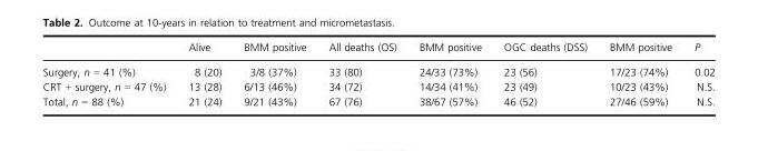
<table><thead><tr><td></td><td>Alive</td><td>BMM positive</td><td>All deaths (OS)</td><td>BMM positive</td><td>OGC deaths (DSS)</td><td>BMM positive</td><td>P</td></tr></thead><tbody><tr><td>Surgery, n = 41 (%)</td><td>8 (20)</td><td>3/8 (37%)</td><td>33 (80)</td><td>24/33 (73%)</td><td>23 (56)</td><td>17/23 (74%)</td><td>0.02</td></tr><tr><td>CRT + surgery, n = 47 (%)</td><td>13 (28)</td><td>6/13 (46%)</td><td>34 (72)</td><td>14/34 (41%)</td><td>23 (49)</td><td>10/23 (43%)</td><td>N.S.</td></tr><tr><td>Total, n = 88 (%)</td><td>21 (24)</td><td>9/21 (43%)</td><td>67 (76)</td><td>38/67 (57%)</td><td>46 (52)</td><td>27/46 (59%)</td><td>N.S.</td></tr></tbody></table>